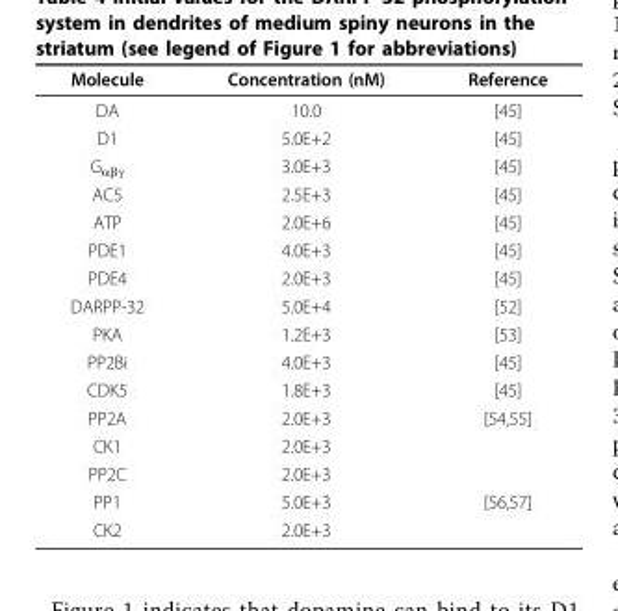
<table><thead><tr><td>Molecule</td><td>Concentration (nM)</td><td>Reference</td></tr></thead><tbody><tr><td>DA</td><td>10.0</td><td>[45]</td></tr><tr><td>D1</td><td>5.0E+2</td><td>[45]</td></tr><tr><td>G<sub>αβγ</sub></td><td>3.0E+3</td><td>[45]</td></tr><tr><td>AC5</td><td>2.5E+3</td><td>[45]</td></tr><tr><td>ATP</td><td>2.0E+6</td><td>[45]</td></tr><tr><td>PDE1</td><td>4.0E+3</td><td>[45]</td></tr><tr><td>PDE4</td><td>2.0E+3</td><td>[45]</td></tr><tr><td>DARPP-32</td><td>5.0E+4</td><td>[52]</td></tr><tr><td>PKA</td><td>1.2E+3</td><td>[53]</td></tr><tr><td>PP2Bi</td><td>4.0E+3</td><td>[45]</td></tr><tr><td>CDK5</td><td>1.8E+3</td><td>[45]</td></tr><tr><td>PP2A</td><td>2.0E+3</td><td>[54,55]</td></tr><tr><td>CK1</td><td>2.0E+3</td><td></td></tr><tr><td>PP2C</td><td>2.0E+3</td><td></td></tr><tr><td>PP1</td><td>5.0E+3</td><td>[56,57]</td></tr><tr><td>CK2</td><td>2.0E+3</td><td></td></tr></tbody></table>